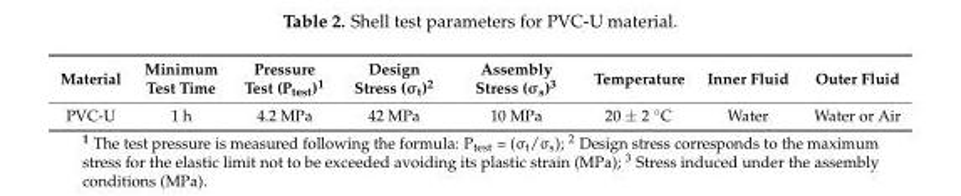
<table><thead><tr><td>Material</td><td>Minimum Test Time</td><td>Pressure Test (P<sub>test</sub>)<sup>1</sup></td><td>Design Stress (σ<sub>t</sub>)<sup>2</sup></td><td>Assembly Stress (σ<sub>s</sub>)<sup>3</sup></td><td>Temperature</td><td>Inner Fluid</td><td>Outer Fluid</td></tr></thead><tbody><tr><td>PVC-U</td><td>1 h</td><td>4.2 MPa</td><td>42 MPa</td><td>10 MPa</td><td>20 ± 2 ◦C</td><td>Water</td><td>Water or Air</td></tr></tbody></table>